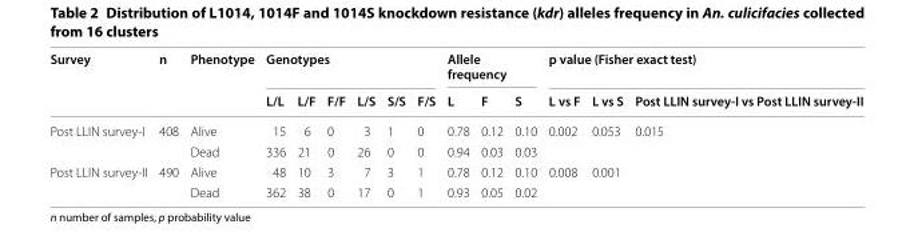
<table><thead><tr><td rowspan="2">Survey</td><td rowspan="2">n</td><td rowspan="2">Phenotype</td><td colspan="6">Genotypes</td><td colspan="3">Allele frequency</td><td colspan="3">p value (Fisher exact test)</td></tr><tr><td>L/L</td><td>L/F</td><td>F/F</td><td>L/S</td><td>S/S</td><td>F/S</td><td>L</td><td>F</td><td>S</td><td>L vs F</td><td>L vs S</td><td>Post LLIN survey‑I vs Post LLIN survey‑II</td></tr></thead><tbody><tr><td rowspan="2">Post LLIN survey-I</td><td rowspan="2">408</td><td>Alive</td><td>15</td><td>6</td><td>0</td><td>3</td><td>1</td><td>0</td><td>0.78</td><td>0.12</td><td>0.10</td><td rowspan="2">0.002</td><td rowspan="2">0.053</td><td rowspan="4">0.015</td></tr><tr><td>Dead</td><td>336</td><td>21</td><td>0</td><td>26</td><td>0</td><td>0</td><td>0.94</td><td>0.03</td><td>0.03</td></tr><tr><td rowspan="2">Post LLIN survey-II</td><td rowspan="2">490</td><td>Alive</td><td>48</td><td>10</td><td>3</td><td>7</td><td>3</td><td>1</td><td>0.78</td><td>0.12</td><td>0.10</td><td rowspan="2">0.008</td><td rowspan="2">0.001</td></tr><tr><td>Dead</td><td>362</td><td>38</td><td>0</td><td>17</td><td>0</td><td>1</td><td>0.93</td><td>0.05</td><td>0.02</td></tr></tbody></table>